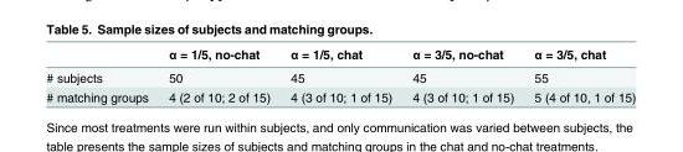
<table><thead><tr><td></td><td>α = 1/5, no-chat</td><td>α = 1/5, chat</td><td>α = 3/5, no-chat</td><td>α = 3/5, chat</td></tr></thead><tbody><tr><td># subjects</td><td>50</td><td>45</td><td>45</td><td>55</td></tr><tr><td># matching groups</td><td>4 (2 of 10; 2 of 15)</td><td>4 (3 of 10; 1 of 15)</td><td>4 (3 of 10; 1 of 15)</td><td>5 (4 of 10, 1 of 15)</td></tr></tbody></table>